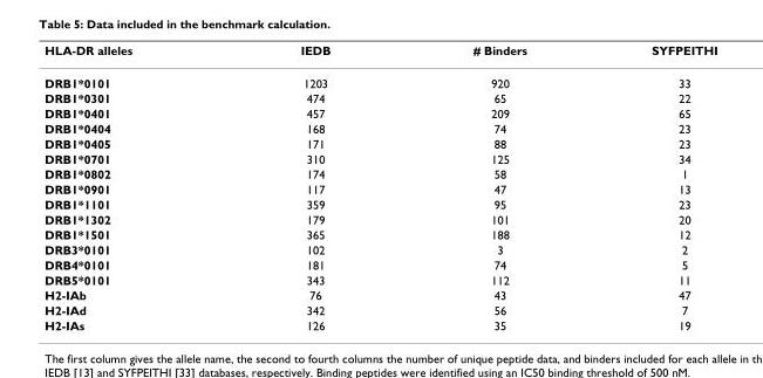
<table><thead><tr><td>HLA-DR alleles</td><td>IEDB</td><td># Binders</td><td>SYFPEITHI</td></tr></thead><tbody><tr><td>DRB1*0101</td><td>1203</td><td>920</td><td>33</td></tr><tr><td>DRB1*0301</td><td>474</td><td>65</td><td>22</td></tr><tr><td>DRB1*0401</td><td>457</td><td>209</td><td>65</td></tr><tr><td>DRB1*0404</td><td>168</td><td>74</td><td>23</td></tr><tr><td>DRB1*0405</td><td>171</td><td>88</td><td>23</td></tr><tr><td>DRB1*0701</td><td>310</td><td>125</td><td>34</td></tr><tr><td>DRB1*0802</td><td>174</td><td>58</td><td>1</td></tr><tr><td>DRB1*0901</td><td>117</td><td>47</td><td>13</td></tr><tr><td>DRB1*1101</td><td>359</td><td>95</td><td>23</td></tr><tr><td>DRB1*1302</td><td>179</td><td>101</td><td>20</td></tr><tr><td>DRB1*1501</td><td>365</td><td>188</td><td>12</td></tr><tr><td>DRB3*0101</td><td>102</td><td>3</td><td>2</td></tr><tr><td>DRB4*0101</td><td>181</td><td>74</td><td>5</td></tr><tr><td>DRB5*0101</td><td>343</td><td>112</td><td>11</td></tr><tr><td>H2-IAb</td><td>76</td><td>43</td><td>47</td></tr><tr><td>H2-IAd</td><td>342</td><td>56</td><td>7</td></tr><tr><td>H2-IAs</td><td>126</td><td>35</td><td>19</td></tr></tbody></table>